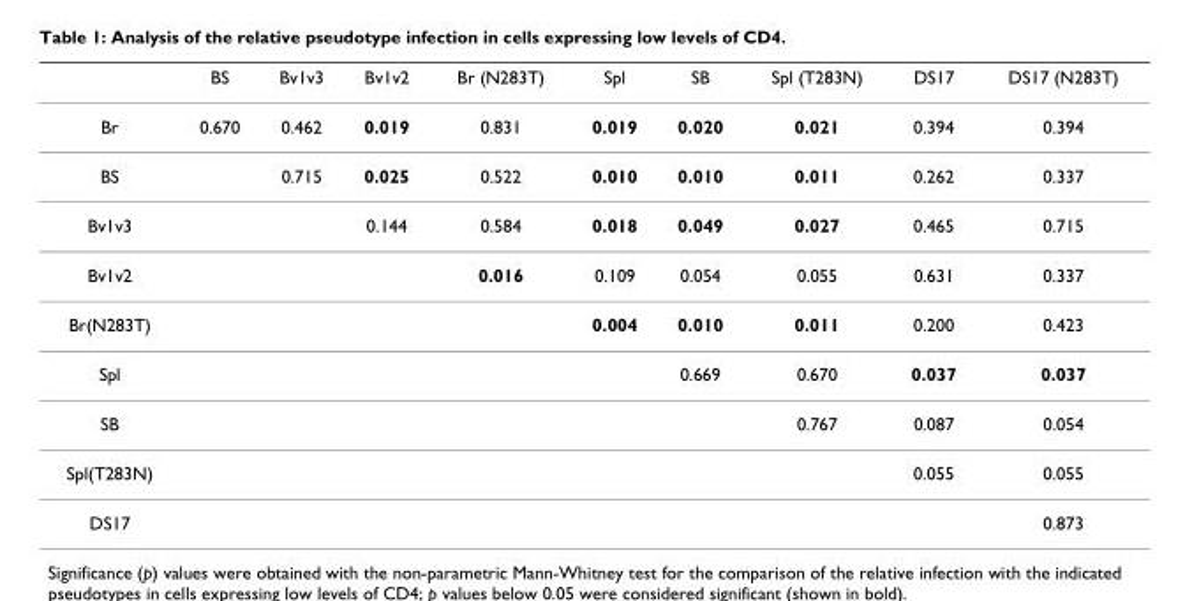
<table><thead><tr><td></td><td>BS</td><td>Bv1v3</td><td>Bv1v2</td><td>Br (N283T)</td><td>Spl</td><td>SB</td><td>Spl (T283N)</td><td>DS17</td><td>DS17 (N283T)</td></tr></thead><tbody><tr><td>Br</td><td>0.670</td><td>0.462</td><td>0.019</td><td>0.831</td><td>0.019</td><td>0.020</td><td>0.021</td><td>0.394</td><td>0.394</td></tr><tr><td>BS</td><td></td><td>0.715</td><td>0.025</td><td>0.522</td><td>0.010</td><td>0.010</td><td>0.011</td><td>0.262</td><td>0.337</td></tr><tr><td>Bv1v3</td><td></td><td></td><td>0.144</td><td>0.584</td><td>0.018</td><td>0.049</td><td>0.027</td><td>0.465</td><td>0.715</td></tr><tr><td>Bv1v2</td><td></td><td></td><td></td><td>0.016</td><td>0.109</td><td>0.054</td><td>0.055</td><td>0.631</td><td>0.337</td></tr><tr><td>Br(N283T)</td><td></td><td></td><td></td><td></td><td>0.004</td><td>0.010</td><td>0.011</td><td>0.200</td><td>0.423</td></tr><tr><td>Spl</td><td></td><td></td><td></td><td></td><td></td><td>0.669</td><td>0.670</td><td>0.037</td><td>0.037</td></tr><tr><td>SB</td><td></td><td></td><td></td><td></td><td></td><td></td><td>0.767</td><td>0.087</td><td>0.054</td></tr><tr><td>Spl(T283N)</td><td></td><td></td><td></td><td></td><td></td><td></td><td></td><td>0.055</td><td>0.055</td></tr><tr><td>DS17</td><td></td><td></td><td></td><td></td><td></td><td></td><td></td><td></td><td>0.873</td></tr></tbody></table>